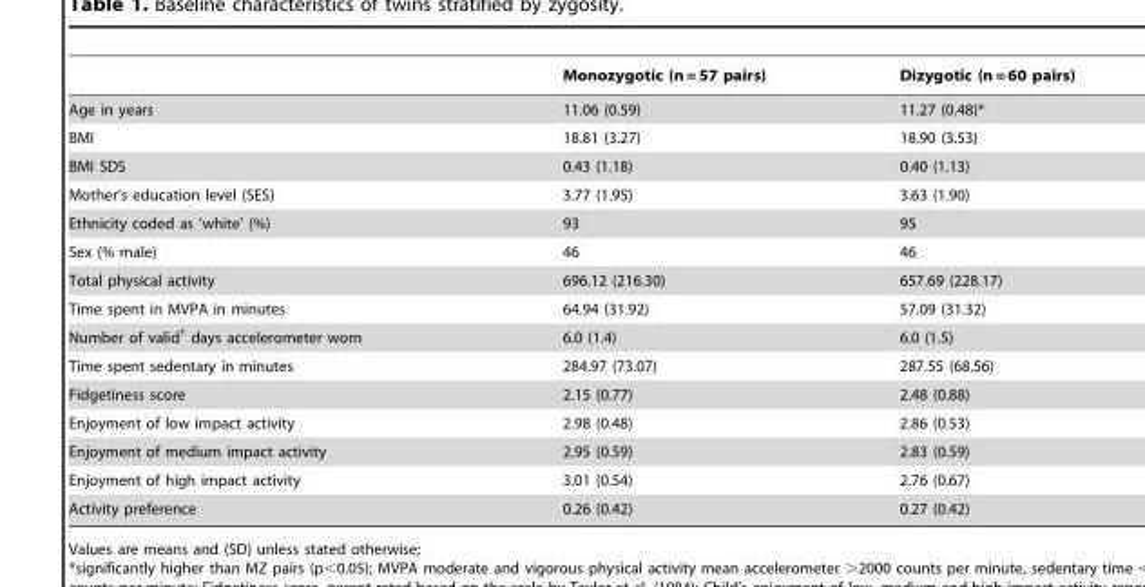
<table><thead><tr><td></td><td>Monozygotic (n = 57 pairs)</td><td>Dizygotic (n = 60 pairs)</td></tr></thead><tbody><tr><td>Age in years</td><td>11.06 (0.59)</td><td>11.27 (0.48)*</td></tr><tr><td>BMI</td><td>18.81 (3.27)</td><td>18.90 (3.53)</td></tr><tr><td>BMI SDS</td><td>0.43 (1.18)</td><td>0.40 (1.13)</td></tr><tr><td>Mother’s education level (SES)</td><td>3.77 (1.95)</td><td>3.63 (1.90)</td></tr><tr><td>Ethnicity coded as ‘white’ (%)</td><td>93</td><td>95</td></tr><tr><td>Sex (% male)</td><td>46</td><td>46</td></tr><tr><td>Total physical activity</td><td>696.12 (216.30)</td><td>657.69 (228.17)</td></tr><tr><td>Time spent in MVPA in minutes</td><td>64.94 (31.92)</td><td>57.09 (31.32)</td></tr><tr><td>Number of valid† days accelerometer worn</td><td>6.0 (1.4)</td><td>6.0 (1.5)</td></tr><tr><td>Time spent sedentary in minutes</td><td>284.97 (73.07)</td><td>287.55 (68.56)</td></tr><tr><td>Fidgetiness score</td><td>2.15 (0.77)</td><td>2.48 (0.88)</td></tr><tr><td>Enjoyment of low impact activity</td><td>2.98 (0.48)</td><td>2.86 (0.53)</td></tr><tr><td>Enjoyment of medium impact activity</td><td>2.95 (0.59)</td><td>2.83 (0.59)</td></tr><tr><td>Enjoyment of high impact activity</td><td>3.01 (0.54)</td><td>2.76 (0.67)</td></tr><tr><td>Activity preference</td><td>0.26 (0.42)</td><td>0.27 (0.42)</td></tr></tbody></table>